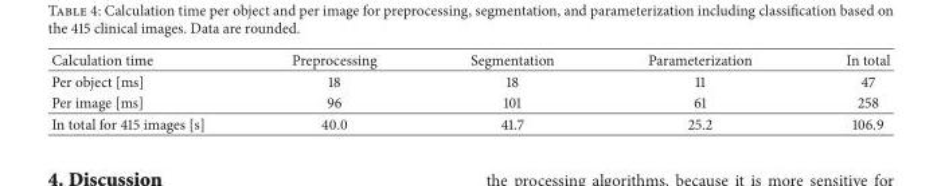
<table><thead><tr><td>Calculation time</td><td>Preprocessing</td><td>Segmentation</td><td>Parameterization</td><td>In total</td></tr></thead><tbody><tr><td>Per object [ms]</td><td>18</td><td>18</td><td>11</td><td>47</td></tr><tr><td>Per image [ms]</td><td>96</td><td>101</td><td>61</td><td>258</td></tr><tr><td>In total for 415 images [s]</td><td>40.0</td><td>41.7</td><td>25.2</td><td>106.9</td></tr></tbody></table>